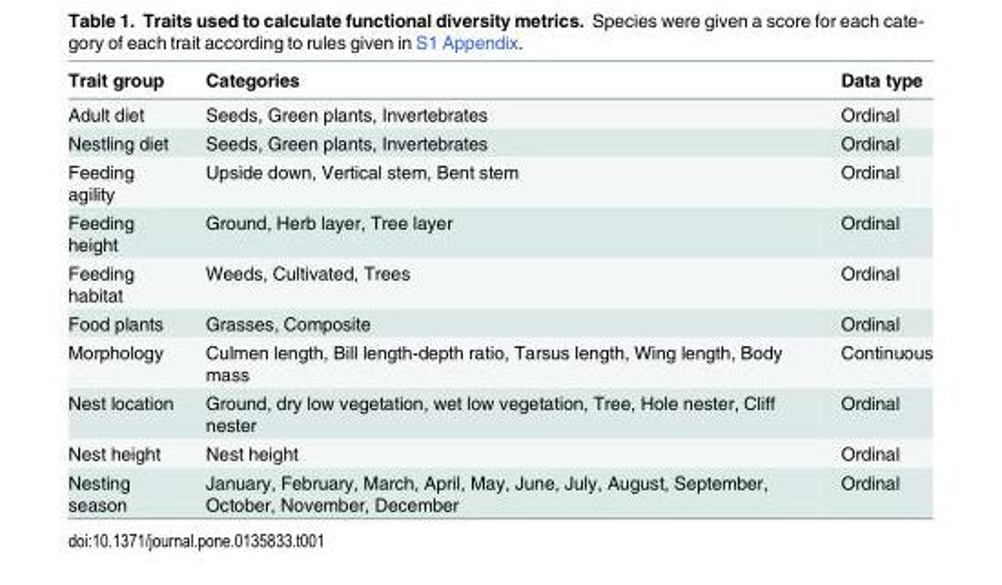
<table><thead><tr><td>Trait group</td><td>Categories</td><td>Data type</td></tr></thead><tbody><tr><td>Adult diet</td><td>Seeds, Green plants, Invertebrates</td><td>Ordinal</td></tr><tr><td>Nestling diet</td><td>Seeds, Green plants, Invertebrates</td><td>Ordinal</td></tr><tr><td>Feeding agility</td><td>Upside down, Vertical stem, Bent stem</td><td>Ordinal</td></tr><tr><td>Feeding height</td><td>Ground, Herb layer, Tree layer</td><td>Ordinal</td></tr><tr><td>Feeding habitat</td><td>Weeds, Cultivated, Trees</td><td>Ordinal</td></tr><tr><td>Food plants</td><td>Grasses, Composite</td><td>Ordinal</td></tr><tr><td>Morphology</td><td>Culmen length, Bill length-depth ratio, Tarsus length, Wing length, Body mass</td><td>Continuous</td></tr><tr><td>Nest location</td><td>Ground, dry low vegetation, wet low vegetation, Tree, Hole nester, Cliff nester</td><td>Ordinal</td></tr><tr><td>Nest height</td><td>Nest height</td><td>Ordinal</td></tr><tr><td>Nesting season</td><td>January, February, March, April, May, June, July, August, September, October, November, December</td><td>Ordinal</td></tr></tbody></table>